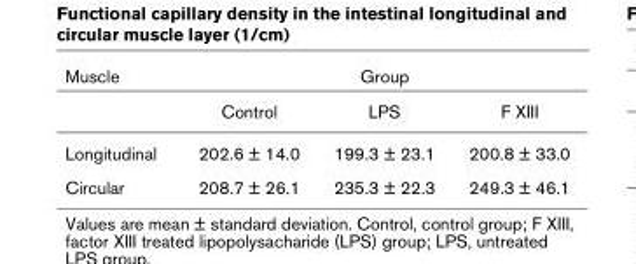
<table><thead><tr><td rowspan="2">Muscle</td><td colspan="3">Group</td></tr><tr><td>Control</td><td>LPS</td><td>F XIII</td></tr></thead><tbody><tr><td>Longitudinal</td><td>202.6 ± 14.0</td><td>199.3 ± 23.1</td><td>200.8 ± 33.0</td></tr><tr><td>Circular</td><td>208.7 ± 26.1</td><td>235.3 ± 22.3</td><td>249.3 ± 46.1</td></tr></tbody></table>